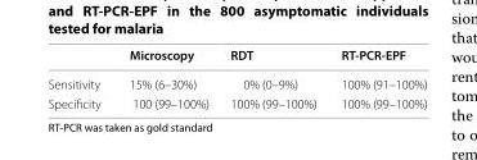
<table><thead><tr><td></td><td>Microscopy</td><td>RDT</td><td>RT‑PCR‑EPF</td></tr></thead><tbody><tr><td>Sensitivity</td><td>15% (6–30%)</td><td>0% (0–9%)</td><td>100% (91–100%)</td></tr><tr><td>Specificity</td><td>100 (99–100%)</td><td>100% (99–100%)</td><td>100% (99–100%)</td></tr></tbody></table>